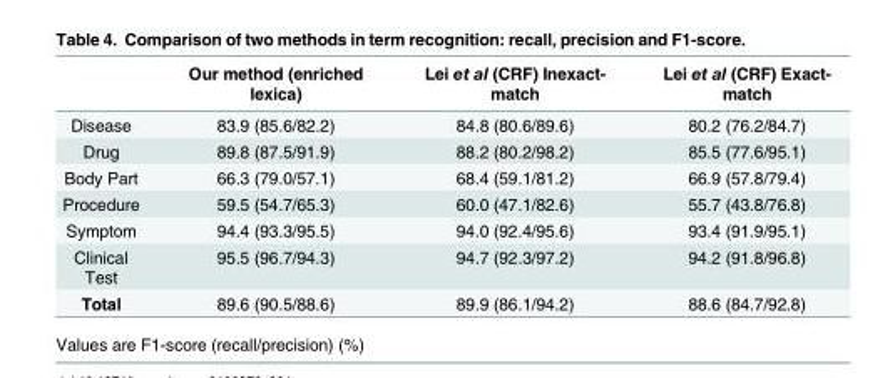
<table><thead><tr><td></td><td>Our method (enriched lexica)</td><td>Lei et al (CRF) Inexact- match</td><td>Lei et al (CRF) Exact- match</td></tr></thead><tbody><tr><td>Disease</td><td>83.9 (85.6/82.2)</td><td>84.8 (80.6/89.6)</td><td>80.2 (76.2/84.7)</td></tr><tr><td>Drug</td><td>89.8 (87.5/91.9)</td><td>88.2 (80.2/98.2)</td><td>85.5 (77.6/95.1)</td></tr><tr><td>Body Part</td><td>66.3 (79.0/57.1)</td><td>68.4 (59.1/81.2)</td><td>66.9 (57.8/79.4)</td></tr><tr><td>Procedure</td><td>59.5 (54.7/65.3)</td><td>60.0 (47.1/82.6)</td><td>55.7 (43.8/76.8)</td></tr><tr><td>Symptom</td><td>94.4 (93.3/95.5)</td><td>94.0 (92.4/95.6)</td><td>93.4 (91.9/95.1)</td></tr><tr><td>Clinical Test</td><td>95.5 (96.7/94.3)</td><td>94.7 (92.3/97.2)</td><td>94.2 (91.8/96.8)</td></tr><tr><td>Total</td><td>89.6 (90.5/88.6)</td><td>89.9 (86.1/94.2)</td><td>88.6 (84.7/92.8)</td></tr></tbody></table>